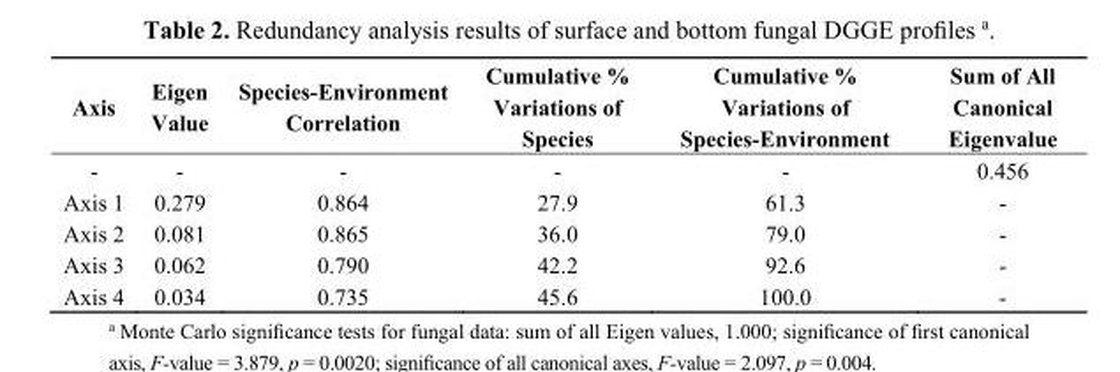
<table><thead><tr><td>Axis</td><td>Eigen Value</td><td>Species-Environment Correlation</td><td>Cumulative % Variations of Species</td><td>Cumulative % Variations of Species-Environment</td><td>Sum of All Canonical Eigenvalue</td></tr></thead><tbody><tr><td>-</td><td>-</td><td>-</td><td>-</td><td>-</td><td>0.456</td></tr><tr><td>Axis 1</td><td>0.279</td><td>0.864</td><td>27.9</td><td>61.3</td><td>-</td></tr><tr><td>Axis 2</td><td>0.081</td><td>0.865</td><td>36.0</td><td>79.0</td><td>-</td></tr><tr><td>Axis 3</td><td>0.062</td><td>0.790</td><td>42.2</td><td>92.6</td><td>-</td></tr><tr><td>Axis 4</td><td>0.034</td><td>0.735</td><td>45.6</td><td>100.0</td><td>-</td></tr></tbody></table>